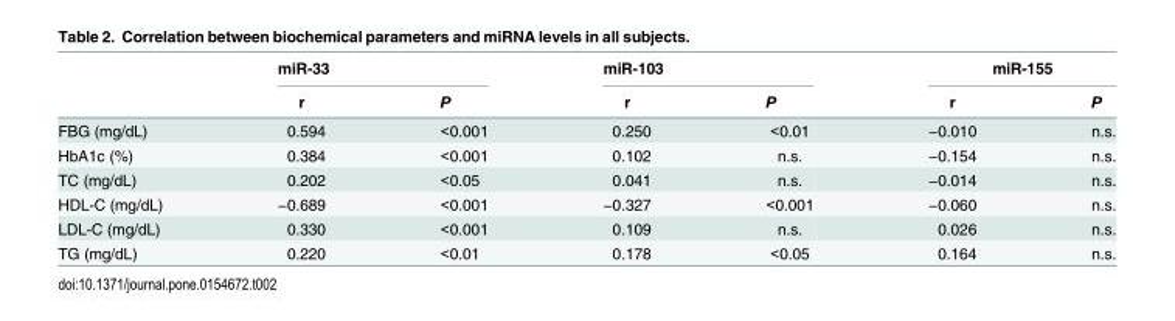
<table><thead><tr><td rowspan="2"></td><td colspan="2">miR-33</td><td colspan="2">miR-103</td><td colspan="2">miR-155</td></tr><tr><td>r</td><td>P</td><td>r</td><td>P</td><td>r</td><td>P</td></tr></thead><tbody><tr><td>FBG (mg/dL)</td><td>0.594</td><td>&lt;0.001</td><td>0.250</td><td>&lt;0.01</td><td>−0.010</td><td>n.s.</td></tr><tr><td>HbA1c (%)</td><td>0.384</td><td>&lt;0.001</td><td>0.102</td><td>n.s.</td><td>−0.154</td><td>n.s.</td></tr><tr><td>TC (mg/dL)</td><td>0.202</td><td>&lt;0.05</td><td>0.041</td><td>n.s.</td><td>−0.014</td><td>n.s.</td></tr><tr><td>HDL-C (mg/dL)</td><td>−0.689</td><td>&lt;0.001</td><td>−0.327</td><td>&lt;0.001</td><td>−0.060</td><td>n.s.</td></tr><tr><td>LDL-C (mg/dL)</td><td>0.330</td><td>&lt;0.001</td><td>0.109</td><td>n.s.</td><td>0.026</td><td>n.s.</td></tr><tr><td>TG (mg/dL)</td><td>0.220</td><td>&lt;0.01</td><td>0.178</td><td>&lt;0.05</td><td>0.164</td><td>n.s.</td></tr></tbody></table>